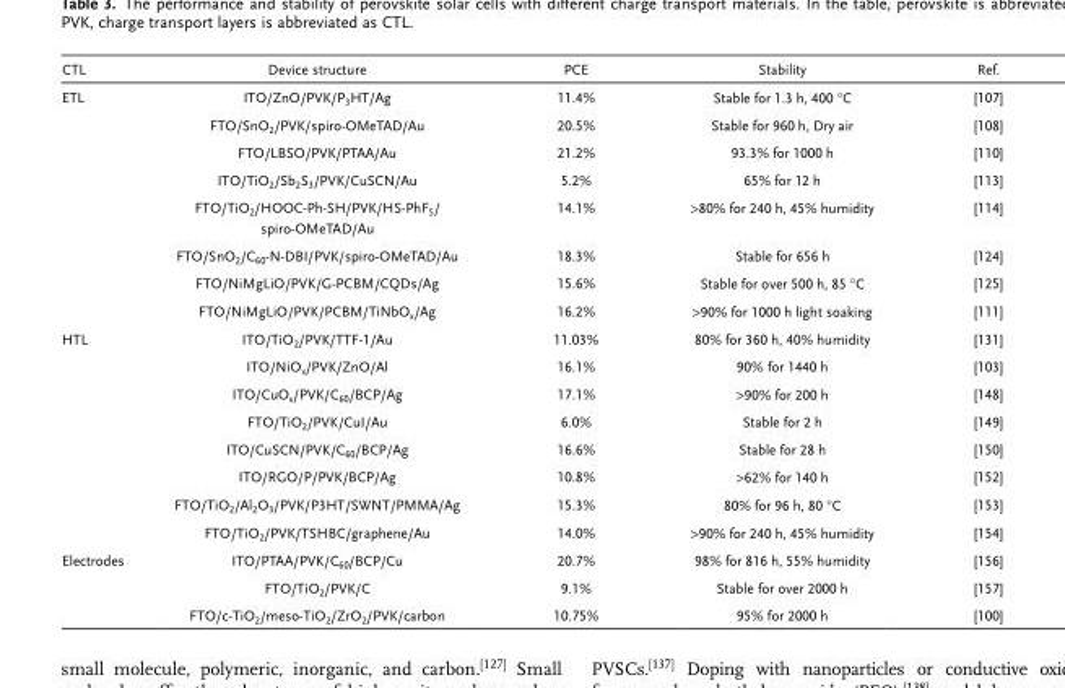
<table><thead><tr><td>CTL</td><td>Device structure</td><td>PCE</td><td>Stability</td><td>Ref.</td></tr></thead><tbody><tr><td rowspan="8">ETL</td><td>ITO/ZnO/PVK/P<sub>3</sub>HT/Ag</td><td>11.4%</td><td>Stable for 1.3 h, 400 °C</td><td>[107]</td></tr><tr><td>FTO/SnO<sub>2</sub>/PVK/spiro-OMeTAD/Au</td><td>20.5%</td><td>Stable for 960 h, Dry air</td><td>[108]</td></tr><tr><td>FTO/LBSO/PVK/PTAA/Au</td><td>21.2%</td><td>93.3% for 1000 h</td><td>[110]</td></tr><tr><td>ITO/TiO<sub>2</sub>/Sb<sub>2</sub>S<sub>3</sub>/PVK/CuSCN/Au</td><td>5.2%</td><td>65% for 12 h</td><td>[113]</td></tr><tr><td>FTO/TiO<sub>2</sub>/HOOC-Ph-SH/PVK/HS-PhF<sub>5</sub>/ spiro-OMeTAD/Au</td><td>14.1%</td><td>&gt;80% for 240 h, 45% humidity</td><td>[114]</td></tr><tr><td>FTO/SnO<sub>2</sub>/C<sub>60</sub>-N-DBI/PVK/spiro-OMeTAD/Au</td><td>18.3%</td><td>Stable for 656 h</td><td>[124]</td></tr><tr><td>FTO/NiMgLiO/PVK/G-PCBM/CQDs/Ag</td><td>15.6%</td><td>Stable for over 500 h, 85 °C</td><td>[125]</td></tr><tr><td>FTO/NiMgLiO/PVK/PCBM/TiNbO<sub>x</sub>/Ag</td><td>16.2%</td><td>&gt;90% for 1000 h light soaking</td><td>[111]</td></tr><tr><td rowspan="8">HTL</td><td>ITO/TiO<sub>2</sub>/PVK/TTF-1/Au</td><td>11.03%</td><td>80% for 360 h, 40% humidity</td><td>[131]</td></tr><tr><td>ITO/NiO<sub>x</sub>/PVK/ZnO/Al</td><td>16.1%</td><td>90% for 1440 h</td><td>[103]</td></tr><tr><td>ITO/CuO<sub>x</sub>/PVK/C<sub>60</sub>/BCP/Ag</td><td>17.1%</td><td>&gt;90% for 200 h</td><td>[148]</td></tr><tr><td>FTO/TiO<sub>2</sub>/PVK/CuI/Au</td><td>6.0%</td><td>Stable for 2 h</td><td>[149]</td></tr><tr><td>ITO/CuSCN/PVK/C<sub>60</sub>/BCP/Ag</td><td>16.6%</td><td>Stable for 28 h</td><td>[150]</td></tr><tr><td>ITO/RGO/P/PVK/BCP/Ag</td><td>10.8%</td><td>&gt;62% for 140 h</td><td>[152]</td></tr><tr><td>FTO/TiO<sub>2</sub>/Al<sub>2</sub>O<sub>3</sub>/PVK/P3HT/SWNT/PMMA/Ag</td><td>15.3%</td><td>80% for 96 h, 80 °C</td><td>[153]</td></tr><tr><td>FTO/TiO<sub>2</sub>/PVK/TSHBC/graphene/Au</td><td>14.0%</td><td>&gt;90% for 240 h, 45% humidity</td><td>[154]</td></tr><tr><td rowspan="3">Electrodes</td><td>ITO/PTAA/PVK/C<sub>60</sub>/BCP/Cu</td><td>20.7%</td><td>98% for 816 h, 55% humidity</td><td>[156]</td></tr><tr><td>FTO/TiO<sub>2</sub>/PVK/C</td><td>9.1%</td><td>Stable for over 2000 h</td><td>[157]</td></tr><tr><td>FTO/c-TiO<sub>2</sub>/meso-TiO<sub>2</sub>/ZrO<sub>2</sub>/PVK/carbon</td><td>10.75%</td><td>95% for 2000 h</td><td>[100]</td></tr></tbody></table>